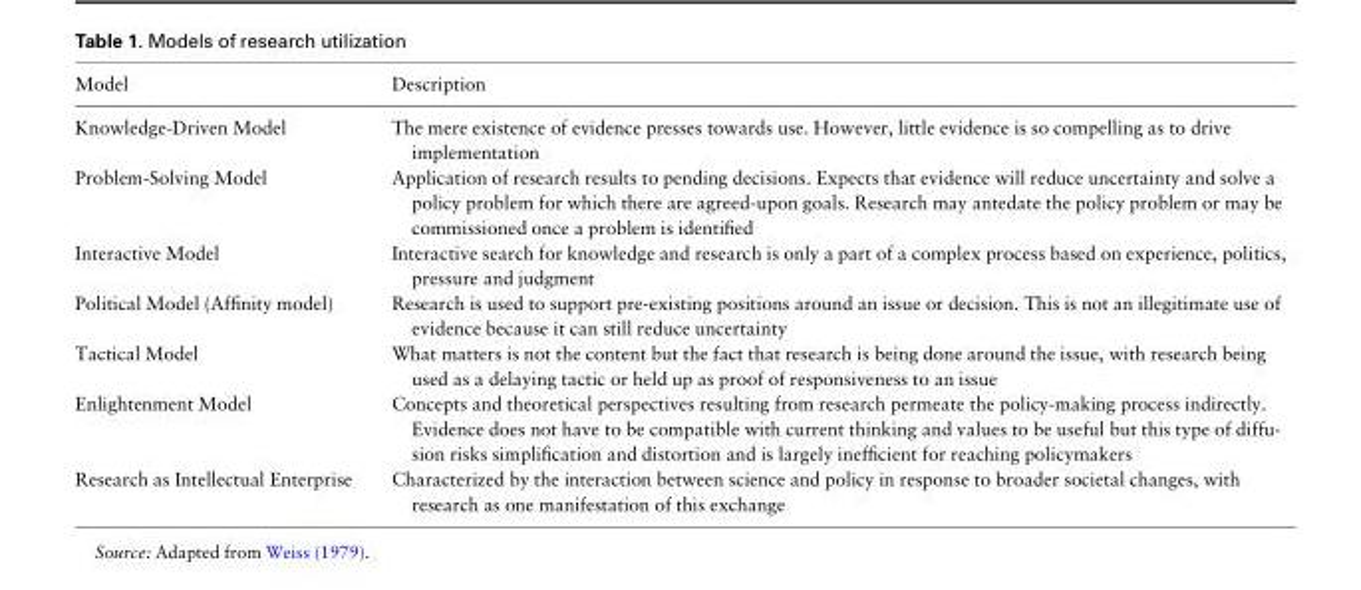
<table><thead><tr><td>Model</td><td>Description</td></tr></thead><tbody><tr><td>Knowledge-Driven Model</td><td>The mere existence of evidence presses towards use. However, little evidence is so compelling as to drive implementation</td></tr><tr><td>Problem-Solving Model</td><td>Application of research results to pending decisions. Expects that evidence will reduce uncertainty and solve a policy problem for which there are agreed-upon goals. Research may antedate the policy problem or may be commissioned once a problem is identified</td></tr><tr><td>Interactive Model</td><td>Interactive search for knowledge and research is only a part of a complex process based on experience, politics, pressure and judgment</td></tr><tr><td>Political Model (Affinity model)</td><td>Research is used to support pre-existing positions around an issue or decision. This is not an illegitimate use of evidence because it can still reduce uncertainty</td></tr><tr><td>Tactical Model</td><td>What matters is not the content but the fact that research is being done around the issue, with research being used as a delaying tactic or held up as proof of responsiveness to an issue</td></tr><tr><td>Enlightenment Model</td><td>Concepts and theoretical perspectives resulting from research permeate the policy-making process indirectly. Evidence does not have to be compatible with current thinking and values to be useful but this type of diffu- sion risks simplification and distortion and is largely inefficient for reaching policymakers</td></tr><tr><td>Research as Intellectual Enterprise</td><td>Characterized by the interaction between science and policy in response to broader societal changes, with research as one manifestation of this exchange</td></tr></tbody></table>